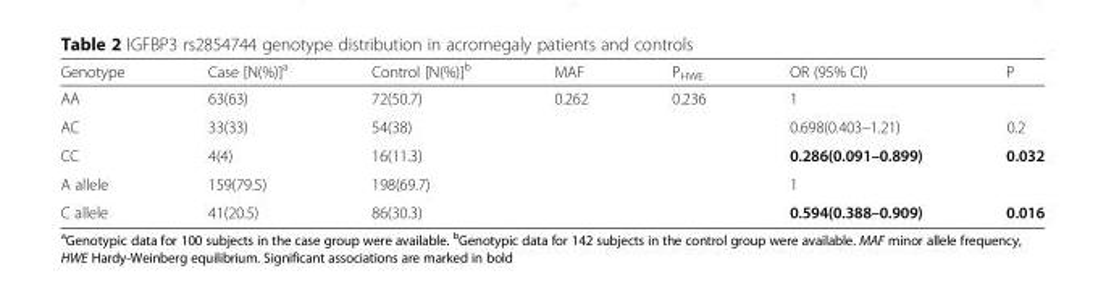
<table><thead><tr><td>Genotype</td><td>Case [N(%)]<sup>a</sup></td><td>Control [N(%)]<sup>b</sup></td><td>MAF</td><td>P<sub>HWE</sub></td><td>OR (95% CI)</td><td>P</td></tr></thead><tbody><tr><td>AA</td><td>63(63)</td><td>72(50.7)</td><td>0.262</td><td>0.236</td><td>1</td><td></td></tr><tr><td>AC</td><td>33(33)</td><td>54(38)</td><td></td><td></td><td>0.698(0.403–1.21)</td><td>0.2</td></tr><tr><td>CC</td><td>4(4)</td><td>16(11.3)</td><td></td><td></td><td>0.286(0.091–0.899)</td><td>0.032</td></tr><tr><td>A allele</td><td>159(79.5)</td><td>198(69.7)</td><td></td><td></td><td>1</td><td></td></tr><tr><td>C allele</td><td>41(20.5)</td><td>86(30.3)</td><td></td><td></td><td>0.594(0.388–0.909)</td><td>0.016</td></tr></tbody></table>